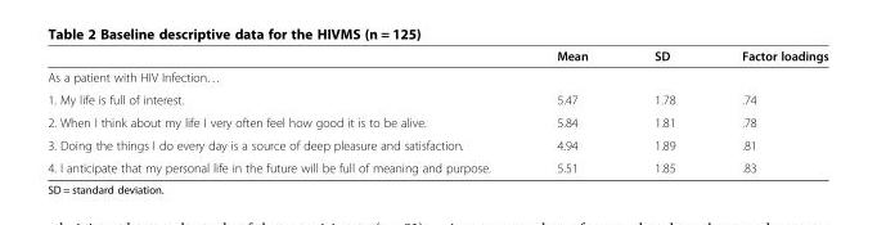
<table><thead><tr><td></td><td>Mean</td><td>SD</td><td>Factor loadings</td></tr></thead><tbody><tr><td colspan="4">As a patient with HIV Infection…</td></tr><tr><td>1. My life is full of interest.</td><td>5.47</td><td>1.78</td><td>.74</td></tr><tr><td>2. When I think about my life I very often feel how good it is to be alive.</td><td>5.84</td><td>1.81</td><td>.78</td></tr><tr><td>3. Doing the things I do every day is a source of deep pleasure and satisfaction.</td><td>4.94</td><td>1.89</td><td>.81</td></tr><tr><td>4. I anticipate that my personal life in the future will be full of meaning and purpose.</td><td>5.51</td><td>1.85</td><td>.83</td></tr></tbody></table>